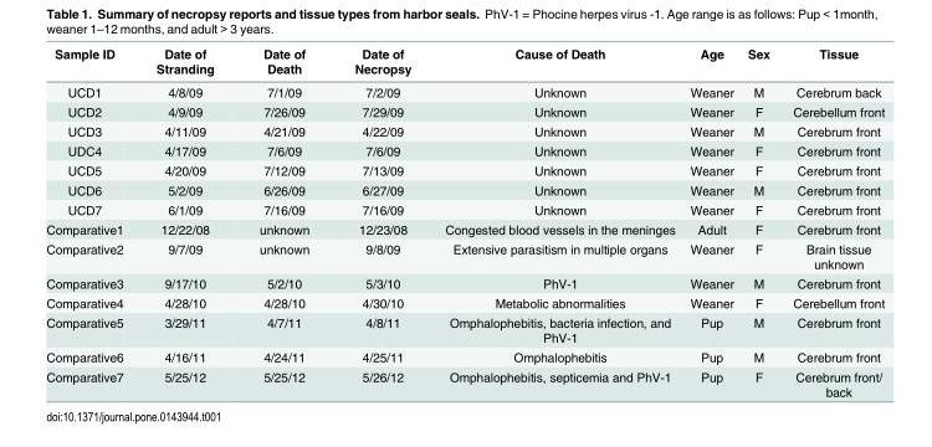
<table><thead><tr><td>Sample ID</td><td>Date of Stranding</td><td>Date of Death</td><td>Date of Necropsy</td><td>Cause of Death</td><td>Age</td><td>Sex</td><td>Tissue</td></tr></thead><tbody><tr><td>UCD1</td><td>4/8/09</td><td>7/1/09</td><td>7/2/09</td><td>Unknown</td><td>Weaner</td><td>M</td><td>Cerebrum back</td></tr><tr><td>UCD2</td><td>4/9/09</td><td>7/26/09</td><td>7/29/09</td><td>Unknown</td><td>Weaner</td><td>F</td><td>Cerebellum front</td></tr><tr><td>UCD3</td><td>4/11/09</td><td>4/21/09</td><td>4/22/09</td><td>Unknown</td><td>Weaner</td><td>M</td><td>Cerebrum front</td></tr><tr><td>UDC4</td><td>4/17/09</td><td>7/6/09</td><td>7/6/09</td><td>Unknown</td><td>Weaner</td><td>F</td><td>Cerebrum front</td></tr><tr><td>UCD5</td><td>4/20/09</td><td>7/12/09</td><td>7/13/09</td><td>Unknown</td><td>Weaner</td><td>F</td><td>Cerebrum front</td></tr><tr><td>UCD6</td><td>5/2/09</td><td>6/26/09</td><td>6/27/09</td><td>Unknown</td><td>Weaner</td><td>M</td><td>Cerebrum front</td></tr><tr><td>UCD7</td><td>6/1/09</td><td>7/16/09</td><td>7/16/09</td><td>Unknown</td><td>Weaner</td><td>F</td><td>Cerebrum front</td></tr><tr><td>Comparative1</td><td>12/22/08</td><td>unknown</td><td>12/23/08</td><td>Congested blood vessels in the meninges</td><td>Adult</td><td>F</td><td>Cerebrum front</td></tr><tr><td>Comparative2</td><td>9/7/09</td><td>unknown</td><td>9/8/09</td><td>Extensive parasitism in multiple organs</td><td>Weaner</td><td>F</td><td>Brain tissue unknown</td></tr><tr><td>Comparative3</td><td>9/17/10</td><td>5/2/10</td><td>5/3/10</td><td>PhV-1</td><td>Weaner</td><td>M</td><td>Cerebrum front</td></tr><tr><td>Comparative4</td><td>4/28/10</td><td>4/28/10</td><td>4/30/10</td><td>Metabolic abnormalities</td><td>Weaner</td><td>F</td><td>Cerebellum front</td></tr><tr><td>Comparative5</td><td>3/29/11</td><td>4/7/11</td><td>4/8/11</td><td>Omphalophebitis, bacteria infection, and PhV-1</td><td>Pup</td><td>M</td><td>Cerebrum front</td></tr><tr><td>Comparative6</td><td>4/16/11</td><td>4/24/11</td><td>4/25/11</td><td>Omphalophebitis</td><td>Pup</td><td>M</td><td>Cerebrum front</td></tr><tr><td>Comparative7</td><td>5/25/12</td><td>5/25/12</td><td>5/26/12</td><td>Omphalophebitis, septicemia and PhV-1</td><td>Pup</td><td>F</td><td>Cerebrum front/ back</td></tr></tbody></table>